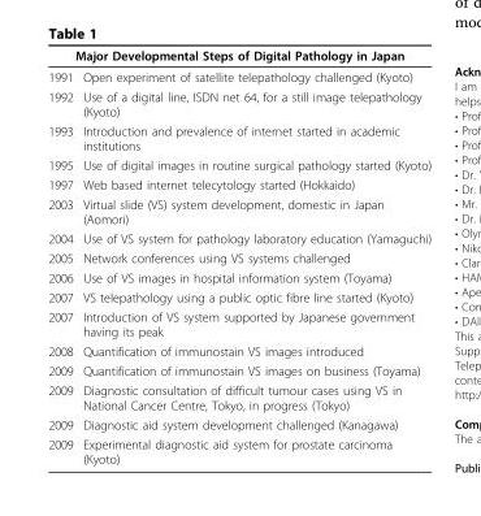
<table><thead><tr><td colspan="2">Major Developmental Steps of Digital Pathology in Japan</td></tr><tr><td>1991</td><td>Open experiment of satellite telepathology challenged (Kyoto)</td></tr></thead><tbody><tr><td>1992</td><td>Use of a digital line, ISDN net 64, for a still image telepathology (Kyoto)</td></tr><tr><td>1993</td><td>Introduction and prevalence of internet started in academic institutions</td></tr><tr><td>1995</td><td>Use of digital images in routine surgical pathology started (Kyoto)</td></tr><tr><td>1997</td><td>Web based internet telecytology started (Hokkaido)</td></tr><tr><td>2003</td><td>Virtual slide (VS) system development, domestic in Japan (Aomori)</td></tr><tr><td>2004</td><td>Use of VS system for pathology laboratory education (Yamaguchi)</td></tr><tr><td>2005</td><td>Network conferences using VS systems challenged</td></tr><tr><td>2006</td><td>Use of VS images in hospital information system (Toyama)</td></tr><tr><td>2007</td><td>VS telepathology using a public optic fibre line started (Kyoto)</td></tr><tr><td>2007</td><td>Introduction of VS system supported by Japanese government having its peak</td></tr><tr><td>2008</td><td>Quantification of immunostain VS images introduced</td></tr><tr><td>2009</td><td>Quantification of immunostain VS images on business (Toyama)</td></tr><tr><td>2009</td><td>Diagnostic consultation of difficult tumour cases using VS in National Cancer Centre, Tokyo, in progress (Tokyo)</td></tr><tr><td>2009</td><td>Diagnostic aid system development challenged (Kanagawa)</td></tr><tr><td>2009</td><td>Experimental diagnostic aid system for prostate carcinoma (Kyoto)</td></tr></tbody></table>